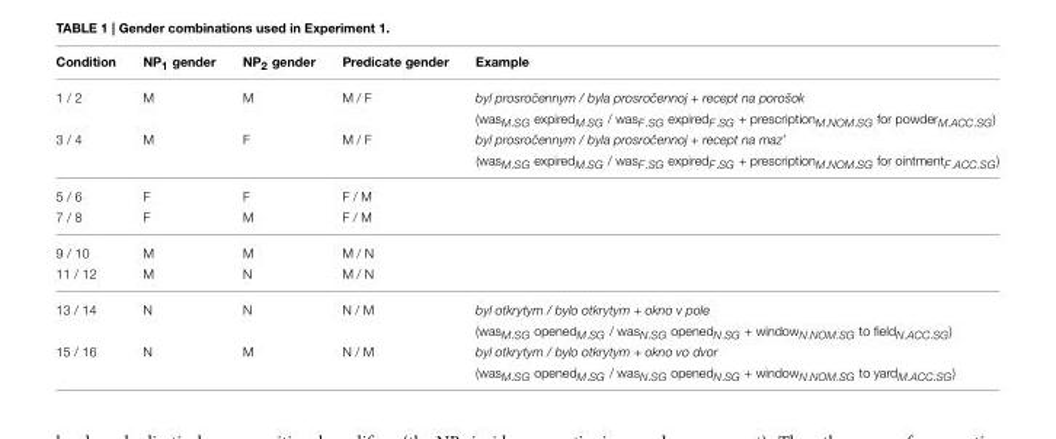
<table><thead><tr><td>Condition</td><td>NP<sub>1</sub> gender</td><td>NP<sub>2</sub> gender</td><td>Predicate gender</td><td>Example</td></tr></thead><tbody><tr><td rowspan="2">1 / 2</td><td>M</td><td>M</td><td>M / F</td><td>byl prosro ˇcennym / byla prosro ˇcennoj + recept na porošok</td></tr><tr><td></td><td></td><td></td><td>(was<sub>M.SG</sub> expired<sub>M.SG</sub> / was<sub>F.SG</sub> expired<sub>F.SG</sub> + prescription<sub>M.NOM.SG</sub> for powder<sub>M.ACC.SG</sub>)</td></tr><tr><td rowspan="2">3 / 4</td><td>M</td><td>F</td><td>M / F</td><td>byl prosro ˇcennym / byla prosro ˇcennoj + recept na maz’</td></tr><tr><td></td><td></td><td></td><td>(was<sub>M.SG</sub> expired<sub>M.SG</sub> / was<sub>F.SG</sub> expired<sub>F.SG</sub> + prescription<sub>M.NOM.SG</sub> for ointment<sub>F.ACC.SG</sub>)</td></tr><tr><td>5 / 6</td><td>F</td><td>F</td><td>F / M</td><td></td></tr><tr><td>7 / 8</td><td>F</td><td>M</td><td>F / M</td><td></td></tr><tr><td>9 / 10</td><td>M</td><td>M</td><td>M / N</td><td></td></tr><tr><td>11 / 12</td><td>M</td><td>N</td><td>M / N</td><td></td></tr><tr><td rowspan="2">13 / 14</td><td>N</td><td>N</td><td>N / M</td><td>byl otkrytym / bylo otkrytym + okno v pole</td></tr><tr><td></td><td></td><td></td><td>(was<sub>M.SG</sub> opened<sub>M.SG</sub> / was<sub>N.SG</sub> opened<sub>N.SG</sub> + window<sub>N.NOM.SG</sub> to field<sub>N.ACC.SG</sub>)</td></tr><tr><td rowspan="2">15 / 16</td><td>N</td><td>M</td><td>N / M</td><td>byl otkrytym / bylo otkrytym + okno vo dvor</td></tr><tr><td></td><td></td><td></td><td>(was<sub>M.SG</sub> opened<sub>M.SG</sub> / was<sub>N.SG</sub> opened<sub>N.SG</sub> + window<sub>N.NOM.SG</sub> to yard<sub>M.ACC.SG</sub>)</td></tr></tbody></table>